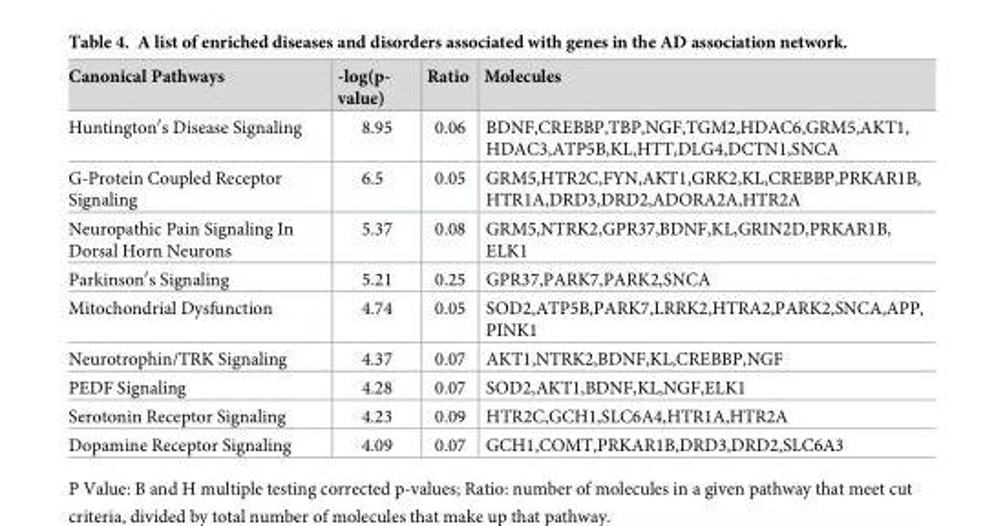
<table><thead><tr><td>Canonical Pathways</td><td>-log(p- value)</td><td>Ratio</td><td>Molecules</td></tr></thead><tbody><tr><td>Huntington′s Disease Signaling</td><td>8.95</td><td>0.06</td><td>BDNF,CREBBP,TBP,NGF,TGM2,HDAC6,GRM5,AKT1, HDAC3,ATP5B,KL,HTT,DLG4,DCTN1,SNCA</td></tr><tr><td>G-Protein Coupled Receptor Signaling</td><td>6.5</td><td>0.05</td><td>GRM5,HTR2C,FYN,AKT1,GRK2,KL,CREBBP,PRKAR1B, HTR1A,DRD3,DRD2,ADORA2A,HTR2A</td></tr><tr><td>Neuropathic Pain Signaling In Dorsal Horn Neurons</td><td>5.37</td><td>0.08</td><td>GRM5,NTRK2,GPR37,BDNF,KL,GRIN2D,PRKAR1B, ELK1</td></tr><tr><td>Parkinson′s Signaling</td><td>5.21</td><td>0.25</td><td>GPR37,PARK7,PARK2,SNCA</td></tr><tr><td>Mitochondrial Dysfunction</td><td>4.74</td><td>0.05</td><td>SOD2,ATP5B,PARK7,LRRK2,HTRA2,PARK2,SNCA,APP, PINK1</td></tr><tr><td>Neurotrophin/TRK Signaling</td><td>4.37</td><td>0.07</td><td>AKT1,NTRK2,BDNF,KL,CREBBP,NGF</td></tr><tr><td>PEDF Signaling</td><td>4.28</td><td>0.07</td><td>SOD2,AKT1,BDNF,KL,NGF,ELK1</td></tr><tr><td>Serotonin Receptor Signaling</td><td>4.23</td><td>0.09</td><td>HTR2C,GCH1,SLC6A4,HTR1A,HTR2A</td></tr><tr><td>Dopamine Receptor Signaling</td><td>4.09</td><td>0.07</td><td>GCH1,COMT,PRKAR1B,DRD3,DRD2,SLC6A3</td></tr></tbody></table>